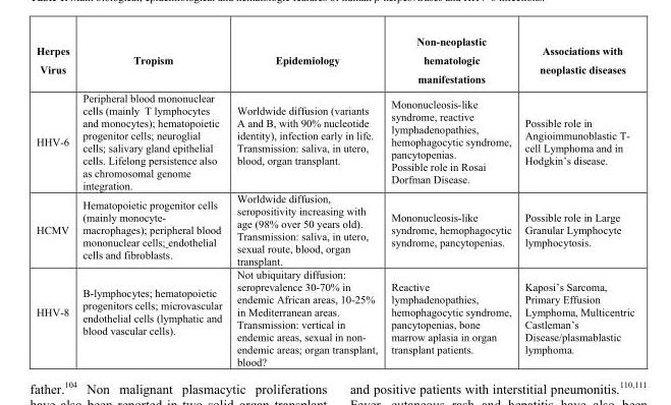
<table><thead><tr><td>Herpes Virus</td><td>Tropism</td><td>Epidemiology</td><td>Non-neoplastic hematologic manifestations</td><td>Associations with neoplastic diseases</td></tr></thead><tbody><tr><td>HHV-6</td><td>Peripheral blood mononuclear cells (mainly T lymphocytes and monocytes); hematopoietic progenitor cells; neuroglial cells; salivary gland epithelial cells. Lifelong persistence also as chromosomal genome integration.</td><td>Worldwide diffusion (variants A and B, with 90% nucleotide identity), infection early in life. Transmission: saliva, in utero, blood, organ transplant.</td><td>Mononucleosis-like syndrome, reactive lymphadenopathies, hemophagocytic syndrome, pancytopenias. Possible role in Rosai Dorfman Disease.</td><td>Possible role in Angioimmunoblastic T- cell Lymphoma and in Hodgkin’s disease.</td></tr><tr><td>HCMV</td><td>Hematopoietic progenitor cells (mainly monocyte- macrophages); peripheral blood mononuclear cells; endothelial cells and fibroblasts.</td><td>Worldwide diffusion, seropositivity increasing with age (98% over 50 years old). Transmission: saliva, in utero, sexual route, blood, organ transplant.</td><td>Mononucleosis-like syndrome, hemophagocytic syndrome, pancytopenias.</td><td>Possible role in Large Granular Lymphocyte lymphocytosis.</td></tr><tr><td>HHV-8</td><td>B-lymphocytes; hematopoietic progenitors cells; microvascular endothelial cells (lymphatic and blood vascular cells).</td><td>Not ubiquitary diffusion: seroprevalence 30-70% in endemic African areas, 10-25% in Mediterranean areas. Transmission: vertical in endemic areas, sexual in non- endemic areas; organ transplant, blood?</td><td>Reactive lymphadenopathies, hemophagocytic syndrome, pancytopenias, bone marrow aplasia in organ transplant patients.</td><td>Kaposi’s Sarcoma, Primary Effusion Lymphoma, Multicentric Castleman’s Disease/plasmablastic lymphoma.</td></tr></tbody></table>